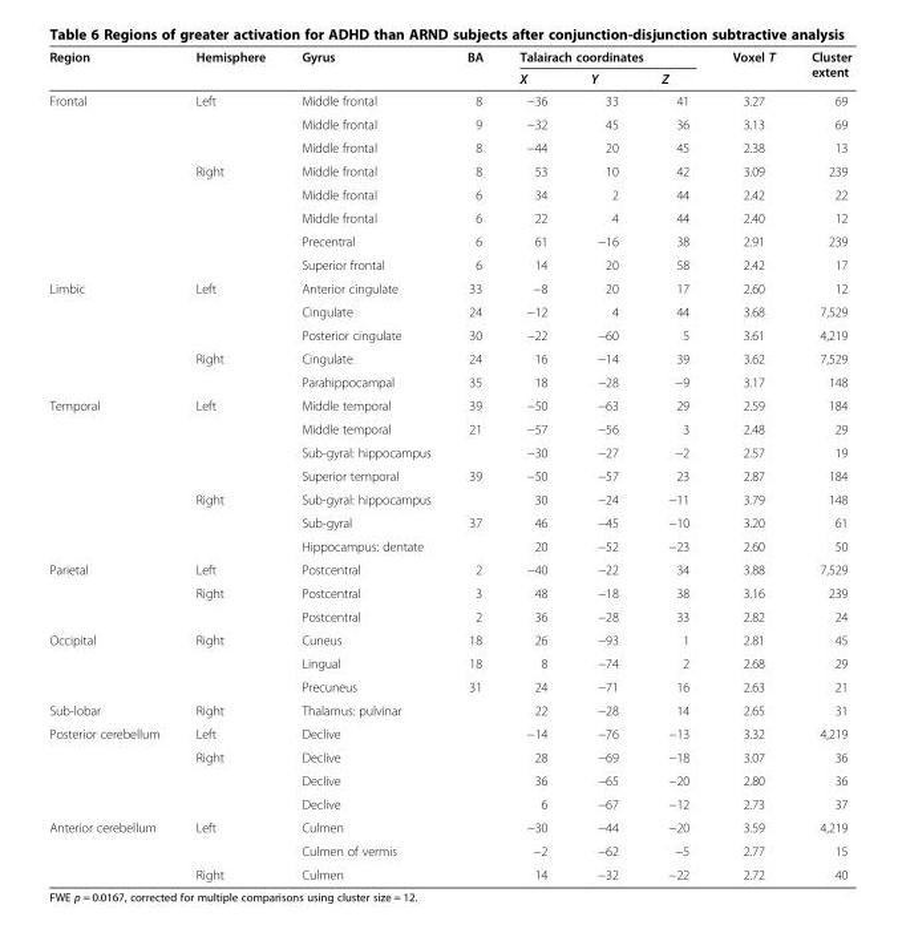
<table><thead><tr><td rowspan="2">Region</td><td rowspan="2">Hemisphere</td><td rowspan="2">Gyrus</td><td rowspan="2">BA</td><td colspan="3">Talairach coordinates</td><td rowspan="2">Voxel T</td><td rowspan="2">Cluster extent</td></tr><tr><td>X</td><td>Y</td><td>Z</td></tr></thead><tbody><tr><td rowspan="8">Frontal</td><td rowspan="3">Left</td><td>Middle frontal</td><td>8</td><td>−36</td><td>33</td><td>41</td><td>3.27</td><td>69</td></tr><tr><td>Middle frontal</td><td>9</td><td>−32</td><td>45</td><td>36</td><td>3.13</td><td>69</td></tr><tr><td>Middle frontal</td><td>8</td><td>−44</td><td>20</td><td>45</td><td>2.38</td><td>13</td></tr><tr><td rowspan="5">Right</td><td>Middle frontal</td><td>8</td><td>53</td><td>10</td><td>42</td><td>3.09</td><td>239</td></tr><tr><td>Middle frontal</td><td>6</td><td>34</td><td>2</td><td>44</td><td>2.42</td><td>22</td></tr><tr><td>Middle frontal</td><td>6</td><td>22</td><td>4</td><td>44</td><td>2.40</td><td>12</td></tr><tr><td>Precentral</td><td>6</td><td>61</td><td>−16</td><td>38</td><td>2.91</td><td>239</td></tr><tr><td>Superior frontal</td><td>6</td><td>14</td><td>20</td><td>58</td><td>2.42</td><td>17</td></tr><tr><td rowspan="5">Limbic</td><td rowspan="3">Left</td><td>Anterior cingulate</td><td>33</td><td>−8</td><td>20</td><td>17</td><td>2.60</td><td>12</td></tr><tr><td>Cingulate</td><td>24</td><td>−12</td><td>4</td><td>44</td><td>3.68</td><td>7,529</td></tr><tr><td>Posterior cingulate</td><td>30</td><td>−22</td><td>−60</td><td>5</td><td>3.61</td><td>4,219</td></tr><tr><td rowspan="2">Right</td><td>Cingulate</td><td>24</td><td>16</td><td>−14</td><td>39</td><td>3.62</td><td>7,529</td></tr><tr><td>Parahippocampal</td><td>35</td><td>18</td><td>−28</td><td>−9</td><td>3.17</td><td>148</td></tr><tr><td rowspan="7">Temporal</td><td rowspan="4">Left</td><td>Middle temporal</td><td>39</td><td>−50</td><td>−63</td><td>29</td><td>2.59</td><td>184</td></tr><tr><td>Middle temporal</td><td>21</td><td>−57</td><td>−56</td><td>3</td><td>2.48</td><td>29</td></tr><tr><td>Sub-gyral: hippocampus</td><td></td><td>−30</td><td>−27</td><td>−2</td><td>2.57</td><td>19</td></tr><tr><td>Superior temporal</td><td>39</td><td>−50</td><td>−57</td><td>23</td><td>2.87</td><td>184</td></tr><tr><td rowspan="3">Right</td><td>Sub-gyral: hippocampus</td><td></td><td>30</td><td>−24</td><td>−11</td><td>3.79</td><td>148</td></tr><tr><td>Sub-gyral</td><td>37</td><td>46</td><td>−45</td><td>−10</td><td>3.20</td><td>61</td></tr><tr><td>Hippocampus: dentate</td><td></td><td>20</td><td>−52</td><td>−23</td><td>2.60</td><td>50</td></tr><tr><td rowspan="3">Parietal</td><td>Left</td><td>Postcentral</td><td>2</td><td>−40</td><td>−22</td><td>34</td><td>3.88</td><td>7,529</td></tr><tr><td rowspan="2">Right</td><td>Postcentral</td><td>3</td><td>48</td><td>−18</td><td>38</td><td>3.16</td><td>239</td></tr><tr><td>Postcentral</td><td>2</td><td>36</td><td>−28</td><td>33</td><td>2.82</td><td>24</td></tr><tr><td rowspan="3">Occipital</td><td rowspan="3">Right</td><td>Cuneus</td><td>18</td><td>26</td><td>−93</td><td>1</td><td>2.81</td><td>45</td></tr><tr><td>Lingual</td><td>18</td><td>8</td><td>−74</td><td>2</td><td>2.68</td><td>29</td></tr><tr><td>Precuneus</td><td>31</td><td>24</td><td>−71</td><td>16</td><td>2.63</td><td>21</td></tr><tr><td>Sub-lobar</td><td>Right</td><td>Thalamus: pulvinar</td><td></td><td>22</td><td>−28</td><td>14</td><td>2.65</td><td>31</td></tr><tr><td rowspan="4">Posterior cerebellum</td><td>Left</td><td>Declive</td><td></td><td>−14</td><td>−76</td><td>−13</td><td>3.32</td><td>4,219</td></tr><tr><td rowspan="3">Right</td><td>Declive</td><td></td><td>28</td><td>−69</td><td>−18</td><td>3.07</td><td>36</td></tr><tr><td>Declive</td><td></td><td>36</td><td>−65</td><td>−20</td><td>2.80</td><td>36</td></tr><tr><td>Declive</td><td></td><td>6</td><td>−67</td><td>−12</td><td>2.73</td><td>37</td></tr><tr><td rowspan="3">Anterior cerebellum</td><td rowspan="2">Left</td><td>Culmen</td><td></td><td>−30</td><td>−44</td><td>−20</td><td>3.59</td><td>4,219</td></tr><tr><td>Culmen of vermis</td><td></td><td>−2</td><td>−62</td><td>−5</td><td>2.77</td><td>15</td></tr><tr><td>Right</td><td>Culmen</td><td></td><td>14</td><td>−32</td><td>−22</td><td>2.72</td><td>40</td></tr></tbody></table>